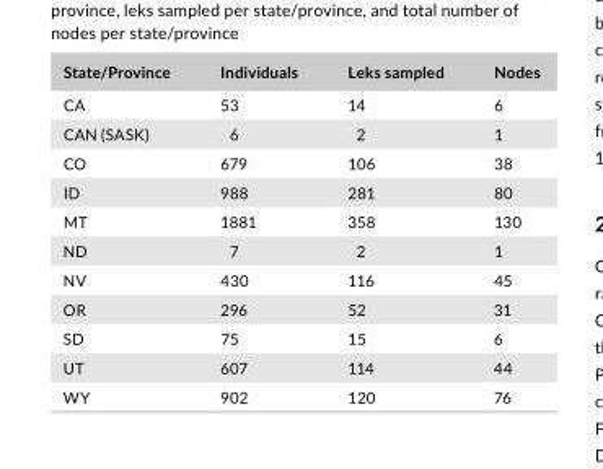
<table><thead><tr><td>State/Province</td><td>Individuals</td><td>Leks sampled</td><td>Nodes</td></tr></thead><tbody><tr><td>CA</td><td>53</td><td>14</td><td>6</td></tr><tr><td>CAN (SASK)</td><td>6</td><td>2</td><td>1</td></tr><tr><td>CO</td><td>679</td><td>106</td><td>38</td></tr><tr><td>ID</td><td>988</td><td>281</td><td>80</td></tr><tr><td>MT</td><td>1881</td><td>358</td><td>130</td></tr><tr><td>ND</td><td>7</td><td>2</td><td>1</td></tr><tr><td>NV</td><td>430</td><td>116</td><td>45</td></tr><tr><td>OR</td><td>296</td><td>52</td><td>31</td></tr><tr><td>SD</td><td>75</td><td>15</td><td>6</td></tr><tr><td>UT</td><td>607</td><td>114</td><td>44</td></tr><tr><td>WY</td><td>902</td><td>120</td><td>76</td></tr></tbody></table>